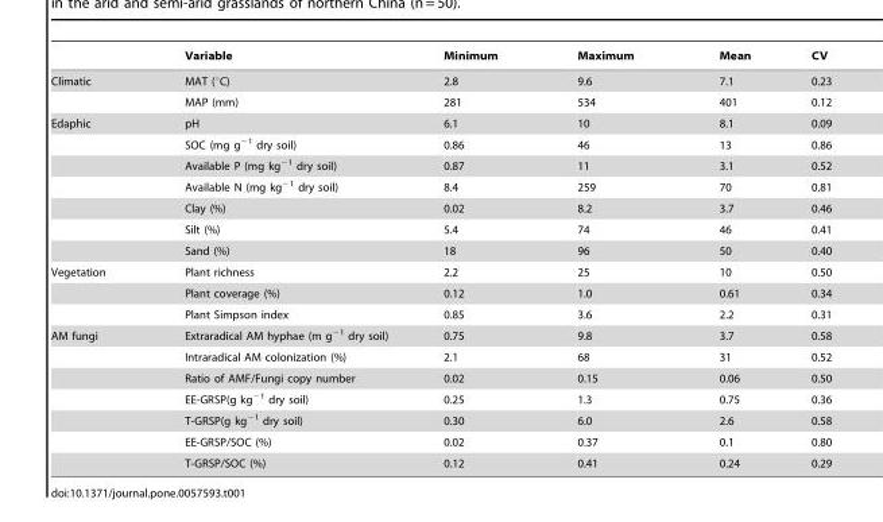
<table><thead><tr><td></td><td>Variable</td><td>Minimum</td><td>Maximum</td><td>Mean</td><td>CV</td></tr></thead><tbody><tr><td rowspan="2">Climatic</td><td>MAT (°C)</td><td>2.8</td><td>9.6</td><td>7.1</td><td>0.23</td></tr><tr><td>MAP (mm)</td><td>281</td><td>534</td><td>401</td><td>0.12</td></tr><tr><td rowspan="7">Edaphic</td><td>pH</td><td>6.1</td><td>10</td><td>8.1</td><td>0.09</td></tr><tr><td>SOC (mg g<sup>−1</sup> dry soil)</td><td>0.86</td><td>46</td><td>13</td><td>0.86</td></tr><tr><td>Available P (mg kg<sup>−1</sup> dry soil)</td><td>0.87</td><td>11</td><td>3.1</td><td>0.52</td></tr><tr><td>Available N (mg kg<sup>−1</sup> dry soil)</td><td>8.4</td><td>259</td><td>70</td><td>0.81</td></tr><tr><td>Clay (%)</td><td>0.02</td><td>8.2</td><td>3.7</td><td>0.46</td></tr><tr><td>Silt (%)</td><td>5.4</td><td>74</td><td>46</td><td>0.41</td></tr><tr><td>Sand (%)</td><td>18</td><td>96</td><td>50</td><td>0.40</td></tr><tr><td rowspan="3">Vegetation</td><td>Plant richness</td><td>2.2</td><td>25</td><td>10</td><td>0.50</td></tr><tr><td>Plant coverage (%)</td><td>0.12</td><td>1.0</td><td>0.61</td><td>0.34</td></tr><tr><td>Plant Simpson index</td><td>0.85</td><td>3.6</td><td>2.2</td><td>0.31</td></tr><tr><td rowspan="7">AM fungi</td><td>Extraradical AM hyphae (m g<sup>−1</sup> dry soil)</td><td>0.75</td><td>9.8</td><td>3.7</td><td>0.58</td></tr><tr><td>Intraradical AM colonization (%)</td><td>2.1</td><td>68</td><td>31</td><td>0.52</td></tr><tr><td>Ratio of AMF/Fungi copy number</td><td>0.02</td><td>0.15</td><td>0.06</td><td>0.50</td></tr><tr><td>EE-GRSP(g kg<sup>−1</sup> dry soil)</td><td>0.25</td><td>1.3</td><td>0.75</td><td>0.36</td></tr><tr><td>T-GRSP(g kg<sup>−1</sup> dry soil)</td><td>0.30</td><td>6.0</td><td>2.6</td><td>0.58</td></tr><tr><td>EE-GRSP/SOC (%)</td><td>0.02</td><td>0.37</td><td>0.1</td><td>0.80</td></tr><tr><td>T-GRSP/SOC (%)</td><td>0.12</td><td>0.41</td><td>0.24</td><td>0.29</td></tr></tbody></table>